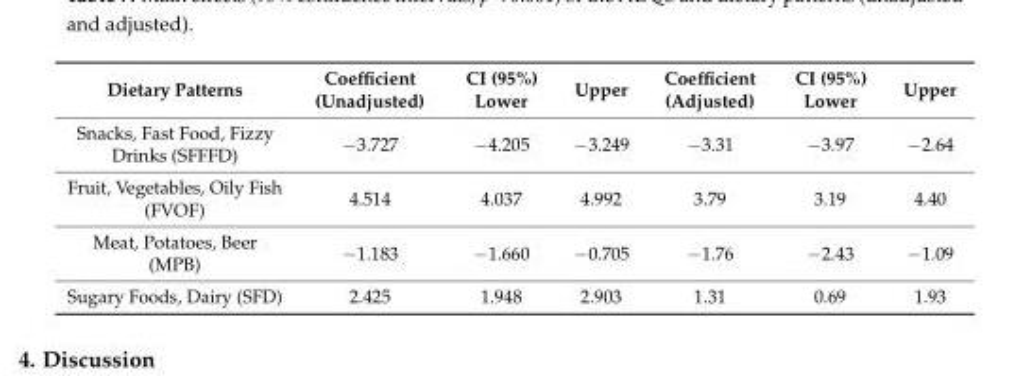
<table><thead><tr><td>Dietary Patterns</td><td>Coefficient (Unadjusted)</td><td>CI (95%) Lower</td><td>Upper</td><td>Coefficient (Adjusted)</td><td>CI (95%) Lower</td><td>Upper</td></tr></thead><tbody><tr><td>Snacks, Fast Food, Fizzy Drinks (SFFFD)</td><td>−3.727</td><td>−4.205</td><td>−3.249</td><td>−3.31</td><td>−3.97</td><td>−2.64</td></tr><tr><td>Fruit, Vegetables, Oily Fish (FVOF)</td><td>4.514</td><td>4.037</td><td>4.992</td><td>3.79</td><td>3.19</td><td>4.40</td></tr><tr><td>Meat, Potatoes, Beer (MPB)</td><td>−1.183</td><td>−1.660</td><td>−0.705</td><td>−1.76</td><td>−2.43</td><td>−1.09</td></tr><tr><td>Sugary Foods, Dairy (SFD)</td><td>2.425</td><td>1.948</td><td>2.903</td><td>1.31</td><td>0.69</td><td>1.93</td></tr></tbody></table>